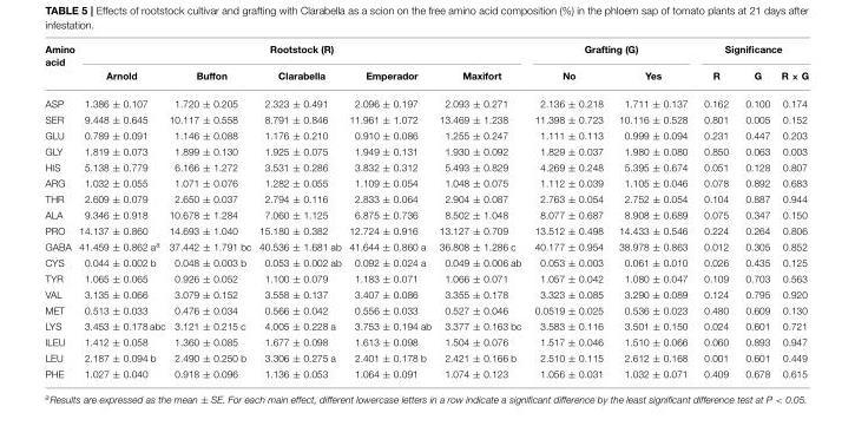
<table><thead><tr><td rowspan="2">Amino acid</td><td colspan="5">Rootstock (R)</td><td colspan="2">Grafting (G)</td><td colspan="3">Significance</td></tr><tr><td>Arnold</td><td>Buffon</td><td>Clarabella</td><td>Emperador</td><td>Maxifort</td><td>No</td><td>Yes</td><td>R</td><td>G</td><td>R × G</td></tr></thead><tbody><tr><td>ASP</td><td>1.386 ± 0.107</td><td>1.720 ± 0.205</td><td>2.323 ± 0.491</td><td>2.096 ± 0.197</td><td>2.093 ± 0.271</td><td>2.136 ± 0.218</td><td>1.711 ± 0.137</td><td>0.162</td><td>0.100</td><td>0.174</td></tr><tr><td>SER</td><td>9.448 ± 0.645</td><td>10.117 ± 0.558</td><td>8.791 ± 0.846</td><td>11.961 ± 1.072</td><td>13.469 ± 1.238</td><td>11.398 ± 0.723</td><td>10.116 ± 0.528</td><td>0.801</td><td>0.005</td><td>0.152</td></tr><tr><td>GLU</td><td>0.789 ± 0.091</td><td>1.146 ± 0.088</td><td>1.176 ± 0.210</td><td>0.910 ± 0.086</td><td>1.255 ± 0.247</td><td>1.111 ± 0.113</td><td>0.999 ± 0.094</td><td>0.231</td><td>0.447</td><td>0.203</td></tr><tr><td>GLY</td><td>1.819 ± 0.073</td><td>1.899 ± 0.130</td><td>1.925 ± 0.075</td><td>1.949 ± 0.131</td><td>1.930 ± 0.092</td><td>1.829 ± 0.037</td><td>1.980 ± 0.080</td><td>0.850</td><td>0.063</td><td>0.003</td></tr><tr><td>HIS</td><td>5.138 ± 0.779</td><td>6.166 ± 1.272</td><td>3.531 ± 0.286</td><td>3.832 ± 0.312</td><td>5.493 ± 0.829</td><td>4.269 ± 0.248</td><td>5.395 ± 0.674</td><td>0.051</td><td>0.128</td><td>0.807</td></tr><tr><td>ARG</td><td>1.032 ± 0.055</td><td>1.071 ± 0.076</td><td>1.282 ± 0.055</td><td>1.109 ± 0.054</td><td>1.048 ± 0.075</td><td>1.112 ± 0.039</td><td>1.105 ± 0.046</td><td>0.078</td><td>0.892</td><td>0.683</td></tr><tr><td>THR</td><td>2.609 ± 0.079</td><td>2.650 ± 0.037</td><td>2.794 ± 0.116</td><td>2.833 ± 0.064</td><td>2.904 ± 0.087</td><td>2.763 ± 0.054</td><td>2.752 ± 0.054</td><td>0.104</td><td>0.887</td><td>0.944</td></tr><tr><td>ALA</td><td>9.346 ± 0.918</td><td>10.678 ± 1.284</td><td>7.060 ± 1.125</td><td>6.875 ± 0.736</td><td>8.502 ± 1.048</td><td>8.077 ± 0.687</td><td>8.908 ± 0.689</td><td>0.075</td><td>0.347</td><td>0.150</td></tr><tr><td>PRO</td><td>14.137 ± 0.860</td><td>14.693 ± 1.040</td><td>15.180 ± 0.382</td><td>12.724 ± 0.916</td><td>13.127 ± 0.709</td><td>13.512 ± 0.498</td><td>14.433 ± 0.546</td><td>0.224</td><td>0.264</td><td>0.806</td></tr><tr><td>GABA</td><td>41.459 ± 0.862 a<sup>a</sup></td><td>37.442 ± 1.791 bc</td><td>40.536 ± 1.681 ab</td><td>41.644 ± 0.860 a</td><td>36.808 ± 1.286 c</td><td>40.177 ± 0.954</td><td>38.978 ± 0.863</td><td>0.012</td><td>0.305</td><td>0.852</td></tr><tr><td>CYS</td><td>0.044 ± 0.002 b</td><td>0.048 ± 0.003 b</td><td>0.053 ± 0.002 ab</td><td>0.092 ± 0.024 a</td><td>0.049 ± 0.006 ab</td><td>0.053 ± 0.003</td><td>0.061 ± 0.010</td><td>0.026</td><td>0.435</td><td>0.125</td></tr><tr><td>TYR</td><td>1.065 ± 0.065</td><td>0.926 ± 0.052</td><td>1.100 ± 0.079</td><td>1.183 ± 0.071</td><td>1.066 ± 0.071</td><td>1.057 ± 0.042</td><td>1.080 ± 0.047</td><td>0.109</td><td>0.703</td><td>0.563</td></tr><tr><td>VAL</td><td>3.135 ± 0.066</td><td>3.079 ± 0.152</td><td>3.558 ± 0.137</td><td>3.407 ± 0.086</td><td>3.355 ± 0.178</td><td>3.323 ± 0.085</td><td>3.290 ± 0.089</td><td>0.124</td><td>0.795</td><td>0.920</td></tr><tr><td>MET</td><td>0.513 ± 0.033</td><td>0.476 ± 0.034</td><td>0.566 ± 0.042</td><td>0.556 ± 0.033</td><td>0.527 ± 0.046</td><td>0.0519 ± 0.025</td><td>0.536 ± 0.023</td><td>0.480</td><td>0.609</td><td>0.130</td></tr><tr><td>LYS</td><td>3.453 ± 0.178 abc</td><td>3.121 ± 0.215 c</td><td>4.005 ± 0.228 a</td><td>3.753 ± 0.194 ab</td><td>3.377 ± 0.163 bc</td><td>3.583 ± 0.116</td><td>3.501 ± 0.150</td><td>0.024</td><td>0.601</td><td>0.721</td></tr><tr><td>ILEU</td><td>1.412 ± 0.058</td><td>1.360 ± 0.085</td><td>1.677 ± 0.098</td><td>1.613 ± 0.098</td><td>1.504 ± 0.076</td><td>1.517 ± 0.046</td><td>1.510 ± 0.066</td><td>0.060</td><td>0.893</td><td>0.947</td></tr><tr><td>LEU</td><td>2.187 ± 0.094 b</td><td>2.490 ± 0.250 b</td><td>3.306 ± 0.275 a</td><td>2.401 ± 0.178 b</td><td>2.421 ± 0.166 b</td><td>2.510 ± 0.115</td><td>2.612 ± 0.168</td><td>0.001</td><td>0.601</td><td>0.449</td></tr><tr><td>PHE</td><td>1.027 ± 0.040</td><td>0.918 ± 0.096</td><td>1.136 ± 0.053</td><td>1.064 ± 0.091</td><td>1.074 ± 0.123</td><td>1.056 ± 0.031</td><td>1.032 ± 0.071</td><td>0.409</td><td>0.678</td><td>0.615</td></tr></tbody></table>